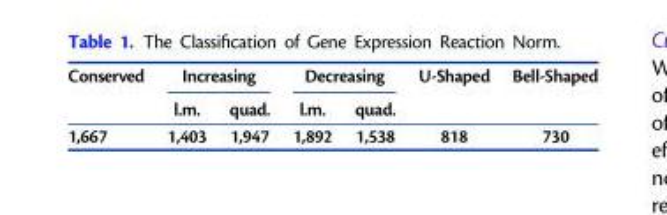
<table><thead><tr><td rowspan="2">Conserved</td><td colspan="2">Increasing</td><td colspan="2">Decreasing</td><td rowspan="2">U-Shaped</td><td rowspan="2">Bell-Shaped</td></tr><tr><td>l.m.</td><td>quad.</td><td>l.m.</td><td>quad.</td></tr></thead><tbody><tr><td>1,667</td><td>1,403</td><td>1,947</td><td>1,892</td><td>1,538</td><td>818</td><td>730</td></tr></tbody></table>